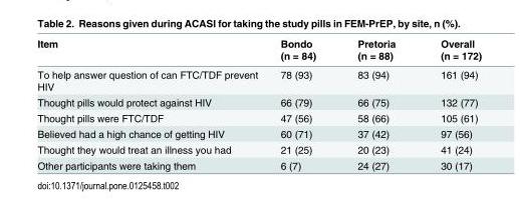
<table><thead><tr><td>Item</td><td>Bondo (n = 84)</td><td>Pretoria (n = 88)</td><td>Overall (n = 172)</td></tr></thead><tbody><tr><td>To help answer question of can FTC/TDF prevent HIV</td><td>78 (93)</td><td>83 (94)</td><td>161 (94)</td></tr><tr><td>Thought pills would protect against HIV</td><td>66 (79)</td><td>66 (75)</td><td>132 (77)</td></tr><tr><td>Thought pills were FTC/TDF</td><td>47 (56)</td><td>58 (66)</td><td>105 (61)</td></tr><tr><td>Believed had a high chance of getting HIV</td><td>60 (71)</td><td>37 (42)</td><td>97 (56)</td></tr><tr><td>Thought they would treat an illness you had</td><td>21 (25)</td><td>20 (23)</td><td>41 (24)</td></tr><tr><td>Other participants were taking them</td><td>6 (7)</td><td>24 (27)</td><td>30 (17)</td></tr></tbody></table>